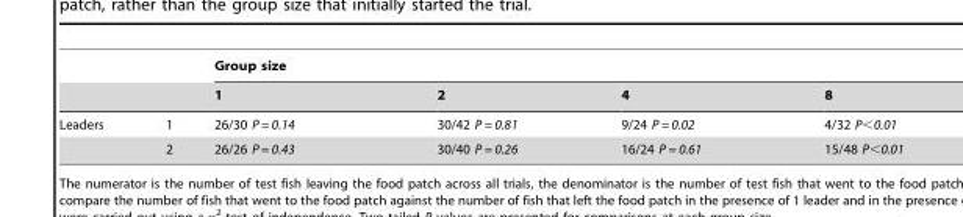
<table><thead><tr><td rowspan="2"></td><td rowspan="2"></td><td colspan="4">Group size</td></tr><tr><td>1</td><td>2</td><td>4</td><td>8</td></tr></thead><tbody><tr><td rowspan="2">Leaders</td><td>1</td><td>26/30 P = 0.14</td><td>30/42 P = 0.81</td><td>9/24 P = 0.02</td><td>4/32 P&lt;0.01</td></tr><tr><td>2</td><td>26/26 P = 0.43</td><td>30/40 P = 0.26</td><td>16/24 P = 0.61</td><td>15/48 P&lt;0.01</td></tr></tbody></table>